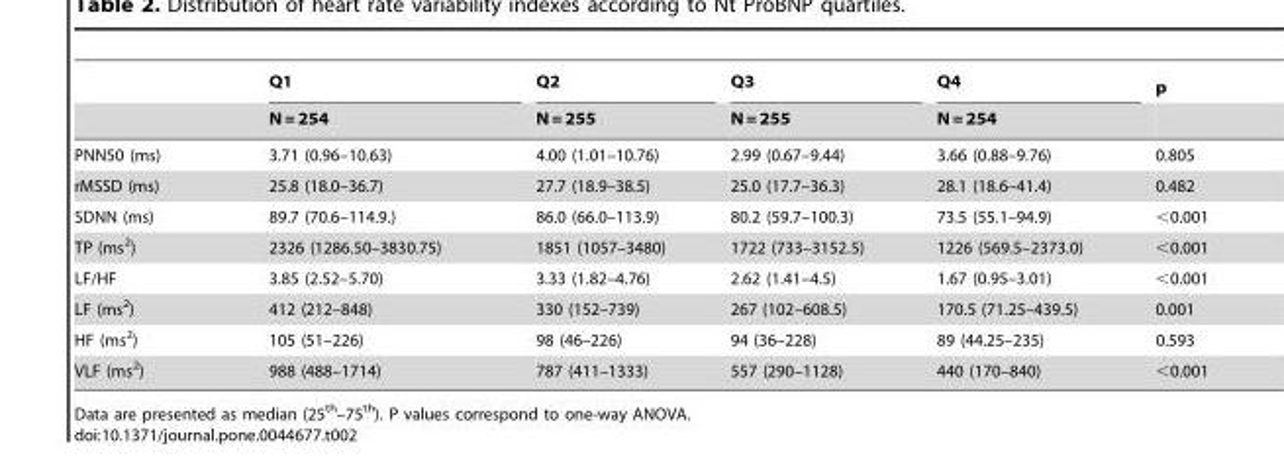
<table><thead><tr><td rowspan="2"></td><td rowspan="2">Q1 N = 254</td><td rowspan="2">Q2 N = 255</td><td rowspan="2">Q3 N = 255</td><td rowspan="2">Q4 N = 254</td><td rowspan="2">p</td></tr><tr></tr></thead><tbody><tr><td>PNN50 (ms)</td><td>3.71 (0.96–10.63)</td><td>4.00 (1.01–10.76)</td><td>2.99 (0.67–9.44)</td><td>3.66 (0.88–9.76)</td><td>0.805</td></tr><tr><td>rMSSD (ms)</td><td>25.8 (18.0–36.7)</td><td>27.7 (18.9–38.5)</td><td>25.0 (17.7–36.3)</td><td>28.1 (18.6–41.4)</td><td>0.482</td></tr><tr><td>SDNN (ms)</td><td>89.7 (70.6–114.9.)</td><td>86.0 (66.0–113.9)</td><td>80.2 (59.7–100.3)</td><td>73.5 (55.1–94.9)</td><td>&lt;0.001</td></tr><tr><td>TP (ms<sup>2</sup>)</td><td>2326 (1286.50–3830.75)</td><td>1851 (1057–3480)</td><td>1722 (733–3152.5)</td><td>1226 (569.5–2373.0)</td><td>&lt;0.001</td></tr><tr><td>LF/HF</td><td>3.85 (2.52–5.70)</td><td>3.33 (1.82–4.76)</td><td>2.62 (1.41–4.5)</td><td>1.67 (0.95–3.01)</td><td>&lt;0.001</td></tr><tr><td>LF (ms<sup>2</sup>)</td><td>412 (212–848)</td><td>330 (152–739)</td><td>267 (102–608.5)</td><td>170.5 (71.25–439.5)</td><td>0.001</td></tr><tr><td>HF (ms<sup>2</sup>)</td><td>105 (51–226)</td><td>98 (46–226)</td><td>94 (36–228)</td><td>89 (44.25–235)</td><td>0.593</td></tr><tr><td>VLF (ms<sup>2</sup>)</td><td>988 (488–1714)</td><td>787 (411–1333)</td><td>557 (290–1128)</td><td>440 (170–840)</td><td>&lt;0.001</td></tr></tbody></table>